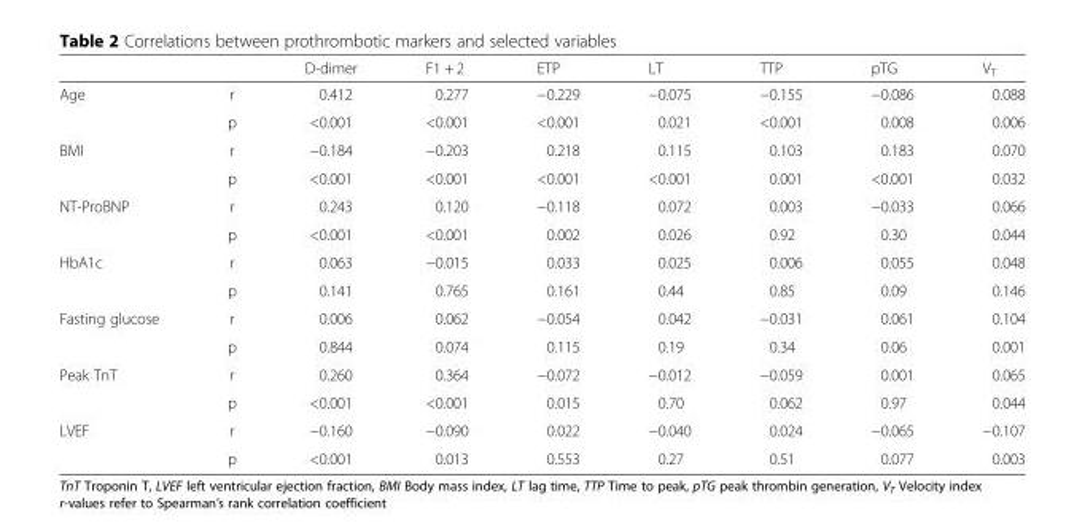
<table><thead><tr><td></td><td></td><td>D-dimer</td><td>F1 + 2</td><td>ETP</td><td>LT</td><td>TTP</td><td>pTG</td><td>V<sub>T</sub></td></tr></thead><tbody><tr><td rowspan="2">Age</td><td>r</td><td>0.412</td><td>0.277</td><td>−0.229</td><td>−0.075</td><td>−0.155</td><td>−0.086</td><td>0.088</td></tr><tr><td>p</td><td>&lt;0.001</td><td>&lt;0.001</td><td>&lt;0.001</td><td>0.021</td><td>&lt;0.001</td><td>0.008</td><td>0.006</td></tr><tr><td rowspan="2">BMI</td><td>r</td><td>−0.184</td><td>−0.203</td><td>0.218</td><td>0.115</td><td>0.103</td><td>0.183</td><td>0.070</td></tr><tr><td>p</td><td>&lt;0.001</td><td>&lt;0.001</td><td>&lt;0.001</td><td>&lt;0.001</td><td>0.001</td><td>&lt;0.001</td><td>0.032</td></tr><tr><td rowspan="2">NT-ProBNP</td><td>r</td><td>0.243</td><td>0.120</td><td>−0.118</td><td>0.072</td><td>0.003</td><td>−0.033</td><td>0.066</td></tr><tr><td>p</td><td>&lt;0.001</td><td>&lt;0.001</td><td>0.002</td><td>0.026</td><td>0.92</td><td>0.30</td><td>0.044</td></tr><tr><td rowspan="2">HbA1c</td><td>r</td><td>0.063</td><td>−0.015</td><td>0.033</td><td>0.025</td><td>0.006</td><td>0.055</td><td>0.048</td></tr><tr><td>p</td><td>0.141</td><td>0.765</td><td>0.161</td><td>0.44</td><td>0.85</td><td>0.09</td><td>0.146</td></tr><tr><td rowspan="2">Fasting glucose</td><td>r</td><td>0.006</td><td>0.062</td><td>−0.054</td><td>0.042</td><td>−0.031</td><td>0.061</td><td>0.104</td></tr><tr><td>p</td><td>0.844</td><td>0.074</td><td>0.115</td><td>0.19</td><td>0.34</td><td>0.06</td><td>0.001</td></tr><tr><td rowspan="2">Peak TnT</td><td>r</td><td>0.260</td><td>0.364</td><td>−0.072</td><td>−0.012</td><td>−0.059</td><td>0.001</td><td>0.065</td></tr><tr><td>p</td><td>&lt;0.001</td><td>&lt;0.001</td><td>0.015</td><td>0.70</td><td>0.062</td><td>0.97</td><td>0.044</td></tr><tr><td rowspan="2">LVEF</td><td>r</td><td>−0.160</td><td>−0.090</td><td>0.022</td><td>−0.040</td><td>0.024</td><td>−0.065</td><td>−0.107</td></tr><tr><td>p</td><td>&lt;0.001</td><td>0.013</td><td>0.553</td><td>0.27</td><td>0.51</td><td>0.077</td><td>0.003</td></tr></tbody></table>